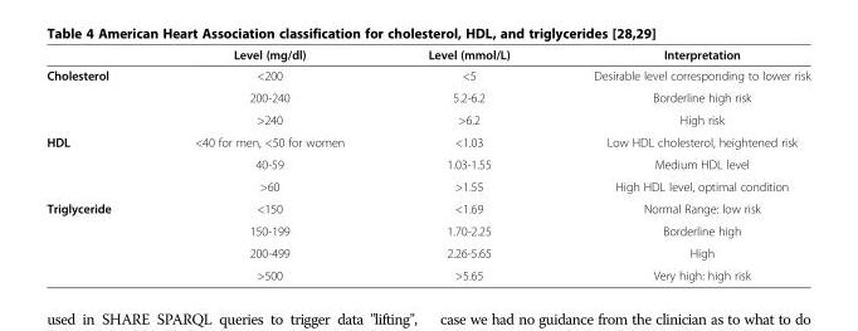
<table><thead><tr><td></td><td>Level (mg/dl)</td><td>Level (mmol/L)</td><td>Interpretation</td></tr></thead><tbody><tr><td rowspan="3">Cholesterol</td><td>&lt;200</td><td>&lt;5</td><td>Desirable level corresponding to lower risk</td></tr><tr><td>200-240</td><td>5.2-6.2</td><td>Borderline high risk</td></tr><tr><td>&gt;240</td><td>&gt;6.2</td><td>High risk</td></tr><tr><td rowspan="3">HDL</td><td>&lt;40 for men, &lt;50 for women</td><td>&lt;1.03</td><td>Low HDL cholesterol, heightened risk</td></tr><tr><td>40-59</td><td>1.03-1.55</td><td>Medium HDL level</td></tr><tr><td>&gt;60</td><td>&gt;1.55</td><td>High HDL level, optimal condition</td></tr><tr><td rowspan="4">Triglyceride</td><td>&lt;150</td><td>&lt;1.69</td><td>Normal Range: low risk</td></tr><tr><td>150-199</td><td>1.70-2.25</td><td>Borderline high</td></tr><tr><td>200-499</td><td>2.26-5.65</td><td>High</td></tr><tr><td>&gt;500</td><td>&gt;5.65</td><td>Very high: high risk</td></tr></tbody></table>